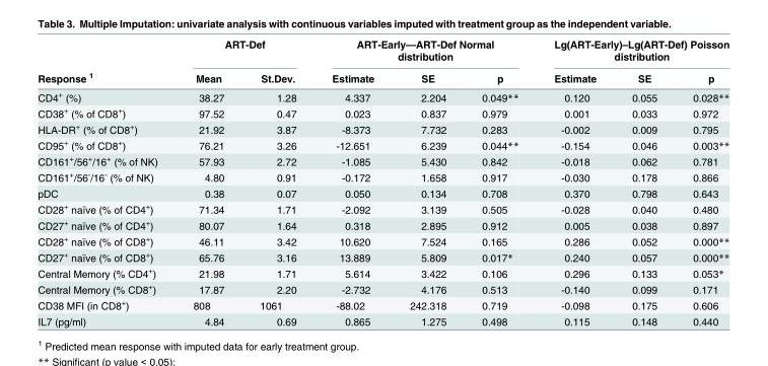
<table><thead><tr><td rowspan="2">Response <sup>1</sup></td><td colspan="2">ART-Def</td><td colspan="3">ART-Early—ART-Def Normal distribution</td><td colspan="3">Lg(ART-Early)–Lg(ART-Def) Poisson distribution</td></tr><tr><td>Mean</td><td>St.Dev.</td><td>Estimate</td><td>SE</td><td>p</td><td>Estimate</td><td>SE</td><td>p</td></tr></thead><tbody><tr><td>CD4<sup>+</sup> (%)</td><td>38.27</td><td>1.28</td><td>4.337</td><td>2.204</td><td>0.049**</td><td>0.120</td><td>0.055</td><td>0.028**</td></tr><tr><td>CD38<sup>+</sup> (% of CD8<sup>+</sup>)</td><td>97.52</td><td>0.47</td><td>0.023</td><td>0.837</td><td>0.979</td><td>0.001</td><td>0.033</td><td>0.972</td></tr><tr><td>HLA-DR<sup>+</sup> (% of CD8<sup>+</sup>)</td><td>21.92</td><td>3.87</td><td>-8.373</td><td>7.732</td><td>0.283</td><td>-0.002</td><td>0.009</td><td>0.795</td></tr><tr><td>CD95<sup>+</sup> (% of CD8<sup>+</sup>)</td><td>76.21</td><td>3.26</td><td>-12.651</td><td>6.239</td><td>0.044**</td><td>-0.154</td><td>0.046</td><td>0.003**</td></tr><tr><td>CD161<sup>+</sup>/56<sup>+</sup>/16<sup>+</sup> (% of NK)</td><td>57.93</td><td>2.72</td><td>-1.085</td><td>5.430</td><td>0.842</td><td>-0.018</td><td>0.062</td><td>0.781</td></tr><tr><td>CD161<sup>+</sup>/56<sup>-</sup>/16<sup>-</sup> (% of NK)</td><td>4.80</td><td>0.91</td><td>-0.172</td><td>1.658</td><td>0.917</td><td>-0.030</td><td>0.178</td><td>0.866</td></tr><tr><td>pDC</td><td>0.38</td><td>0.07</td><td>0.050</td><td>0.134</td><td>0.708</td><td>0.370</td><td>0.798</td><td>0.643</td></tr><tr><td>CD28<sup>+</sup> naïve (% of CD4<sup>+</sup>)</td><td>71.34</td><td>1.71</td><td>-2.092</td><td>3.139</td><td>0.505</td><td>-0.028</td><td>0.040</td><td>0.480</td></tr><tr><td>CD27<sup>+</sup> naïve (% of CD4<sup>+</sup>)</td><td>80.07</td><td>1.64</td><td>0.318</td><td>2.895</td><td>0.912</td><td>0.005</td><td>0.038</td><td>0.897</td></tr><tr><td>CD28<sup>+</sup> naïve (% of CD8<sup>+</sup>)</td><td>46.11</td><td>3.42</td><td>10.620</td><td>7.524</td><td>0.165</td><td>0.286</td><td>0.052</td><td>0.000**</td></tr><tr><td>CD27<sup>+</sup> naïve (% of CD8<sup>+</sup>)</td><td>65.76</td><td>3.16</td><td>13.889</td><td>5.809</td><td>0.017*</td><td>0.240</td><td>0.057</td><td>0.000**</td></tr><tr><td>Central Memory (% CD4<sup>+</sup>)</td><td>21.98</td><td>1.71</td><td>5.614</td><td>3.422</td><td>0.106</td><td>0.296</td><td>0.133</td><td>0.053*</td></tr><tr><td>Central Memory (% CD8<sup>+</sup>)</td><td>17.87</td><td>2.20</td><td>-2.732</td><td>4.176</td><td>0.513</td><td>-0.140</td><td>0.099</td><td>0.171</td></tr><tr><td>CD38 MFI (in CD8<sup>+</sup>)</td><td>808</td><td>1061</td><td>-88.02</td><td>242.318</td><td>0.719</td><td>-0.098</td><td>0.175</td><td>0.606</td></tr><tr><td>IL7 (pg/ml)</td><td>4.84</td><td>0.69</td><td>0.865</td><td>1.275</td><td>0.498</td><td>0.115</td><td>0.148</td><td>0.440</td></tr></tbody></table>